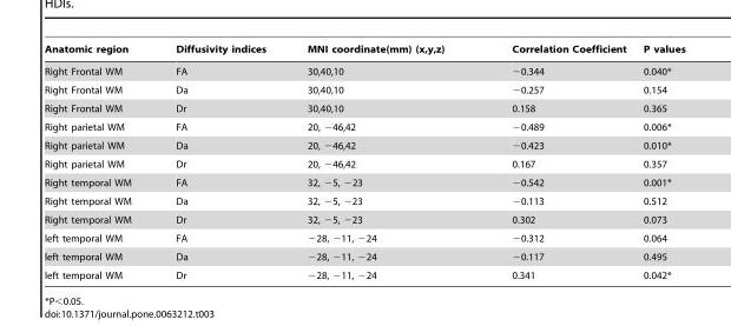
<table><thead><tr><td>Anatomic region</td><td>Diffusivity indices</td><td>MNI coordinate(mm) (x,y,z)</td><td>Correlation Coefficient</td><td>P values</td></tr></thead><tbody><tr><td>Right Frontal WM</td><td>FA</td><td>30,40,10</td><td>−0.344</td><td>0.040*</td></tr><tr><td>Right Frontal WM</td><td>Da</td><td>30,40,10</td><td>−0.257</td><td>0.154</td></tr><tr><td>Right Frontal WM</td><td>Dr</td><td>30,40,10</td><td>0.158</td><td>0.365</td></tr><tr><td>Right parietal WM</td><td>FA</td><td>20, −46,42</td><td>−0.489</td><td>0.006*</td></tr><tr><td>Right parietal WM</td><td>Da</td><td>20, −46,42</td><td>−0.423</td><td>0.010*</td></tr><tr><td>Right parietal WM</td><td>Dr</td><td>20, −46,42</td><td>0.167</td><td>0.357</td></tr><tr><td>Right temporal WM</td><td>FA</td><td>32, −5, −23</td><td>−0.542</td><td>0.001*</td></tr><tr><td>Right temporal WM</td><td>Da</td><td>32, −5, −23</td><td>−0.113</td><td>0.512</td></tr><tr><td>Right temporal WM</td><td>Dr</td><td>32, −5, −23</td><td>0.302</td><td>0.073</td></tr><tr><td>left temporal WM</td><td>FA</td><td>−28, −11, −24</td><td>−0.312</td><td>0.064</td></tr><tr><td>left temporal WM</td><td>Da</td><td>−28, −11, −24</td><td>−0.117</td><td>0.495</td></tr><tr><td>left temporal WM</td><td>Dr</td><td>−28, −11, −24</td><td>0.341</td><td>0.042*</td></tr></tbody></table>